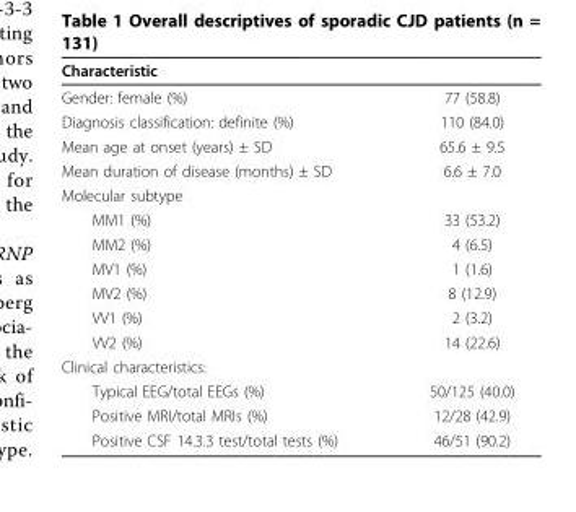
<table><thead><tr><td>Characteristic</td><td></td></tr></thead><tbody><tr><td>Gender: female (%)</td><td>77 (58.8)</td></tr><tr><td>Diagnosis classification: definite (%)</td><td>110 (84.0)</td></tr><tr><td>Mean age at onset (years) ± SD</td><td>65.6 ± 9.5</td></tr><tr><td>Mean duration of disease (months) ± SD</td><td>6.6 ± 7.0</td></tr><tr><td colspan="2">Molecular subtype</td></tr><tr><td>MM1 (%)</td><td>33 (53.2)</td></tr><tr><td>MM2 (%)</td><td>4 (6.5)</td></tr><tr><td>MV1 (%)</td><td>1 (1.6)</td></tr><tr><td>MV2 (%)</td><td>8 (12.9)</td></tr><tr><td>VV1 (%)</td><td>2 (3.2)</td></tr><tr><td>VV2 (%)</td><td>14 (22.6)</td></tr><tr><td colspan="2">Clinical characteristics:</td></tr><tr><td>Typical EEG/total EEGs (%)</td><td>50/125 (40.0)</td></tr><tr><td>Positive MRI/total MRIs (%)</td><td>12/28 (42.9)</td></tr><tr><td>Positive CSF 14.3.3 test/total tests (%)</td><td>46/51 (90.2)</td></tr></tbody></table>